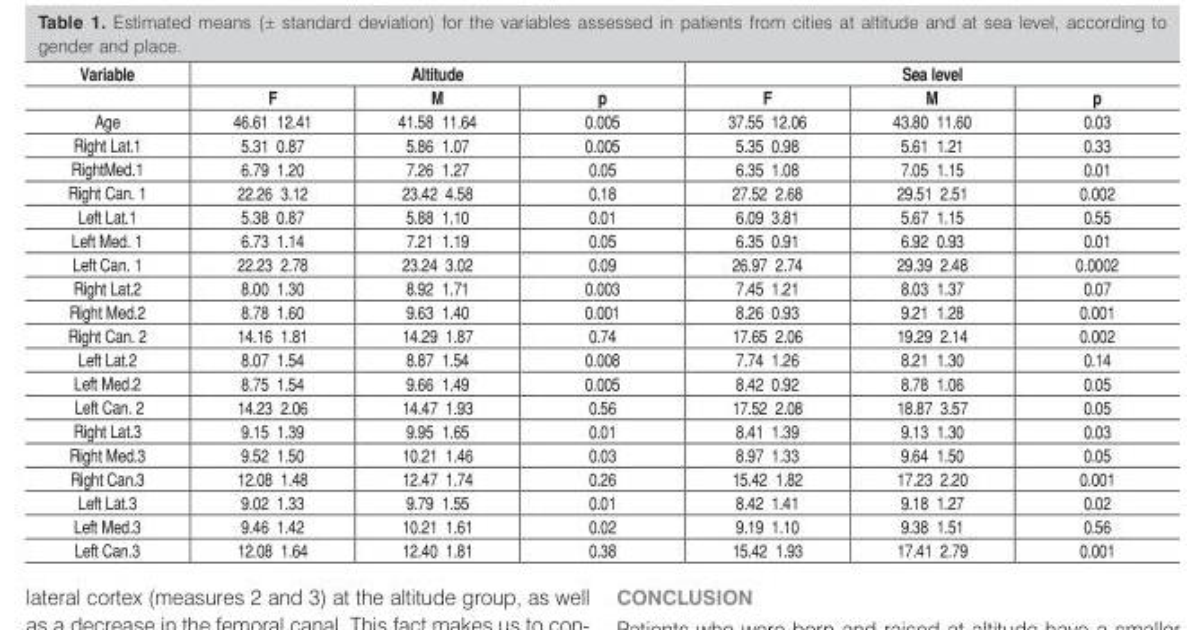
<table><thead><tr><td rowspan="2">Variable</td><td colspan="3">Altitude</td><td colspan="3">Sea level</td></tr><tr><td>F</td><td>M</td><td>p</td><td>F</td><td>M</td><td>p</td></tr></thead><tbody><tr><td>Age</td><td>46.61±12.41</td><td>41.58±11.64</td><td>0.005</td><td>37.55±12.06</td><td>43.80±11.60</td><td>0.03</td></tr><tr><td>Right Lat.1</td><td>5.31±0.87</td><td>5.86±1.07</td><td>0.005</td><td>5.35±0.98</td><td>5.61±1.21</td><td>0.33</td></tr><tr><td>RightMed.1</td><td>6.79±1.20</td><td>7.26±1.27</td><td>0.05</td><td>6.35±1.08</td><td>7.05±1.15</td><td>0.01</td></tr><tr><td>Right Can. 1</td><td>22.26±3.12</td><td>23.42±4.58</td><td>0.18</td><td>27.52±2.68</td><td>29.51±2.51</td><td>0.002</td></tr><tr><td>Left Lat.1</td><td>5.38±0.87</td><td>5.88±1.10</td><td>0.01</td><td>6.09±3.81</td><td>5.67±1.15</td><td>0.55</td></tr><tr><td>Left Med. 1</td><td>6.73±1.14</td><td>7.21±1.19</td><td>0.05</td><td>6.35±0.91</td><td>6.92±0.93</td><td>0.01</td></tr><tr><td>Left Can. 1</td><td>22.23±2.78</td><td>23.24±3.02</td><td>0.09</td><td>26.97±2.74</td><td>29.39±2.48</td><td>0.0002</td></tr><tr><td>Right Lat.2</td><td>8.00±1.30</td><td>8.92±1.71</td><td>0.003</td><td>7.45±1.21</td><td>8.03±1.37</td><td>0.07</td></tr><tr><td>Right Med.2</td><td>8.78±1.60</td><td>9.63±1.40</td><td>0.001</td><td>8.26±0.93</td><td>9.21±1.28</td><td>0.001</td></tr><tr><td>Right Can. 2</td><td>14.16±1.81</td><td>14.29±1.87</td><td>0.74</td><td>17.65±2.06</td><td>19.29±2.14</td><td>0.002</td></tr><tr><td>Left Lat.2</td><td>8.07±1.54</td><td>8.87±1.54</td><td>0.008</td><td>7.74±1.26</td><td>8.21±1.30</td><td>0.14</td></tr><tr><td>Left Med.2</td><td>8.75±1.54</td><td>9.66±1.49</td><td>0.005</td><td>8.42±0.92</td><td>8.78±1.06</td><td>0.05</td></tr><tr><td>Left Can. 2</td><td>14.23±2.06</td><td>14.47±1.93</td><td>0.56</td><td>17.52±2.08</td><td>18.87±3.57</td><td>0.05</td></tr><tr><td>Right Lat.3</td><td>9.15±1.39</td><td>9.95±1.65</td><td>0.01</td><td>8.41±1.39</td><td>9.13±1.30</td><td>0.03</td></tr><tr><td>Right Med.3</td><td>9.52±1.50</td><td>10.21±1.46</td><td>0.03</td><td>8.97±1.33</td><td>9.64±1.50</td><td>0.05</td></tr><tr><td>Right Can.3</td><td>12.08±1.48</td><td>12.47±1.74</td><td>0.26</td><td>15.42±1.82</td><td>17.23±2.20</td><td>0.001</td></tr><tr><td>Left Lat.3</td><td>9.02±1.33</td><td>9.79±1.55</td><td>0.01</td><td>8.42±1.41</td><td>9.18±1.27</td><td>0.02</td></tr><tr><td>Left Med.3</td><td>9.46±1.42</td><td>10.21±1.61</td><td>0.02</td><td>9.19±1.10</td><td>9.38±1.51</td><td>0.56</td></tr><tr><td>Left Can.3</td><td>12.08±1.64</td><td>12.40±1.81</td><td>0.38</td><td>15.42±1.93</td><td>17.41±2.79</td><td>0.001</td></tr></tbody></table>